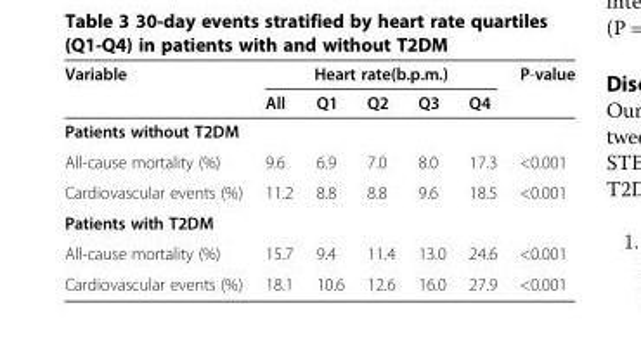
<table><thead><tr><td rowspan="2">Variable</td><td colspan="5">Heart rate(b.p.m.)</td><td rowspan="2">P-value</td></tr><tr><td>All</td><td>Q1</td><td>Q2</td><td>Q3</td><td>Q4</td></tr></thead><tbody><tr><td colspan="7">Patients without T2DM</td></tr><tr><td>All-cause mortality (%)</td><td>9.6</td><td>6.9</td><td>7.0</td><td>8.0</td><td>17.3</td><td>&lt;0.001</td></tr><tr><td>Cardiovascular events (%)</td><td>11.2</td><td>8.8</td><td>8.8</td><td>9.6</td><td>18.5</td><td>&lt;0.001</td></tr><tr><td colspan="7">Patients with T2DM</td></tr><tr><td>All-cause mortality (%)</td><td>15.7</td><td>9.4</td><td>11.4</td><td>13.0</td><td>24.6</td><td>&lt;0.001</td></tr><tr><td>Cardiovascular events (%)</td><td>18.1</td><td>10.6</td><td>12.6</td><td>16.0</td><td>27.9</td><td>&lt;0.001</td></tr></tbody></table>